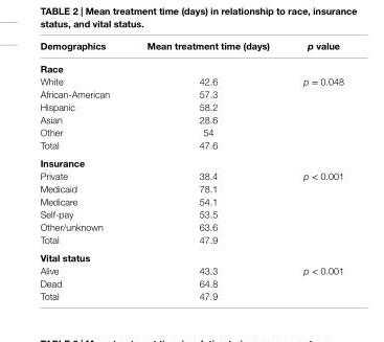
<table><thead><tr><td>Demographics</td><td>Mean treatment time (days)</td><td>p value</td></tr></thead><tbody><tr><td colspan="3">race</td></tr><tr><td>White</td><td>42.6</td><td rowspan="6">p = 0.048</td></tr><tr><td>African-American</td><td>57.3</td></tr><tr><td>Hispanic</td><td>58.2</td></tr><tr><td>Asian</td><td>28.6</td></tr><tr><td>Other</td><td>54</td></tr><tr><td>Total</td><td>47.6</td></tr><tr><td colspan="3">insurance</td></tr><tr><td>Private</td><td>38.4</td><td rowspan="6">p &lt; 0.001</td></tr><tr><td>Medicaid</td><td>78.1</td></tr><tr><td>Medicare</td><td>54.1</td></tr><tr><td>Self-pay</td><td>53.5</td></tr><tr><td>Other/unknown</td><td>63.6</td></tr><tr><td>Total</td><td>47.9</td></tr><tr><td colspan="3">Vital status</td></tr><tr><td>Alive</td><td>43.3</td><td rowspan="3">p &lt; 0.001</td></tr><tr><td>Dead</td><td>64.8</td></tr><tr><td>Total</td><td>47.9</td></tr></tbody></table>